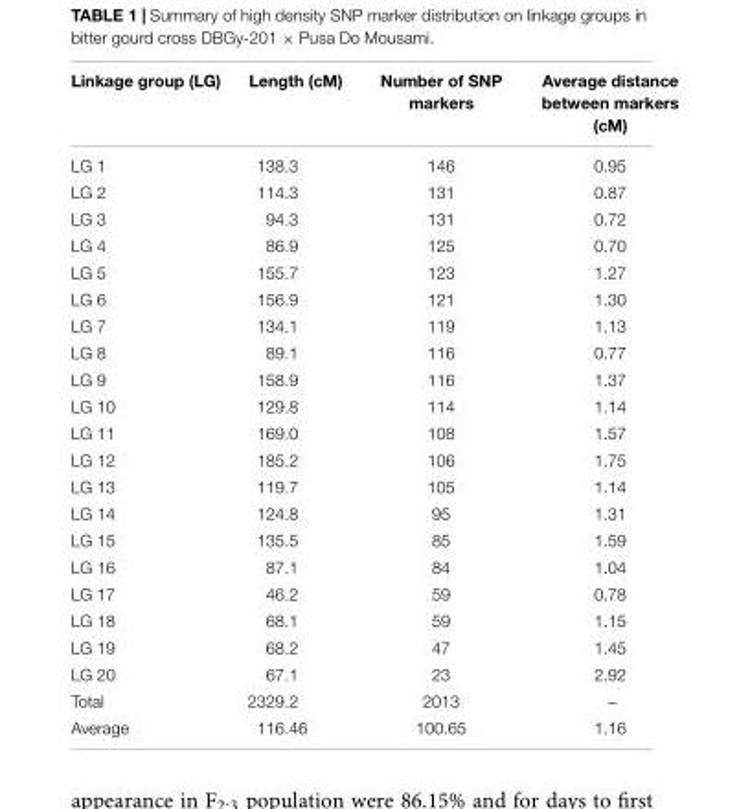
<table><thead><tr><td>Linkage group (LG)</td><td>Length (cM)</td><td>Number of SNP markers</td><td>Average distance between markers (cM)</td></tr></thead><tbody><tr><td>LG 1</td><td>138.3</td><td>146</td><td>0.95</td></tr><tr><td>LG 2</td><td>114.3</td><td>131</td><td>0.87</td></tr><tr><td>LG 3</td><td>94.3</td><td>131</td><td>0.72</td></tr><tr><td>LG 4</td><td>86.9</td><td>125</td><td>0.70</td></tr><tr><td>LG 5</td><td>155.7</td><td>123</td><td>1.27</td></tr><tr><td>LG 6</td><td>156.9</td><td>121</td><td>1.30</td></tr><tr><td>LG 7</td><td>134.1</td><td>119</td><td>1.13</td></tr><tr><td>LG 8</td><td>89.1</td><td>116</td><td>0.77</td></tr><tr><td>LG 9</td><td>158.9</td><td>116</td><td>1.37</td></tr><tr><td>LG 10</td><td>129.8</td><td>114</td><td>1.14</td></tr><tr><td>LG 11</td><td>169.0</td><td>108</td><td>1.57</td></tr><tr><td>LG 12</td><td>185.2</td><td>106</td><td>1.75</td></tr><tr><td>LG 13</td><td>119.7</td><td>105</td><td>1.14</td></tr><tr><td>LG 14</td><td>124.8</td><td>95</td><td>1.31</td></tr><tr><td>LG 15</td><td>135.5</td><td>85</td><td>1.59</td></tr><tr><td>LG 16</td><td>87.1</td><td>84</td><td>1.04</td></tr><tr><td>LG 17</td><td>46.2</td><td>59</td><td>0.78</td></tr><tr><td>LG 18</td><td>68.1</td><td>59</td><td>1.15</td></tr><tr><td>LG 19</td><td>68.2</td><td>47</td><td>1.45</td></tr><tr><td>LG 20</td><td>67.1</td><td>23</td><td>2.92</td></tr><tr><td>Total</td><td>2329.2</td><td>2013</td><td>–</td></tr><tr><td>Average</td><td>116.46</td><td>100.65</td><td>1.16</td></tr></tbody></table>